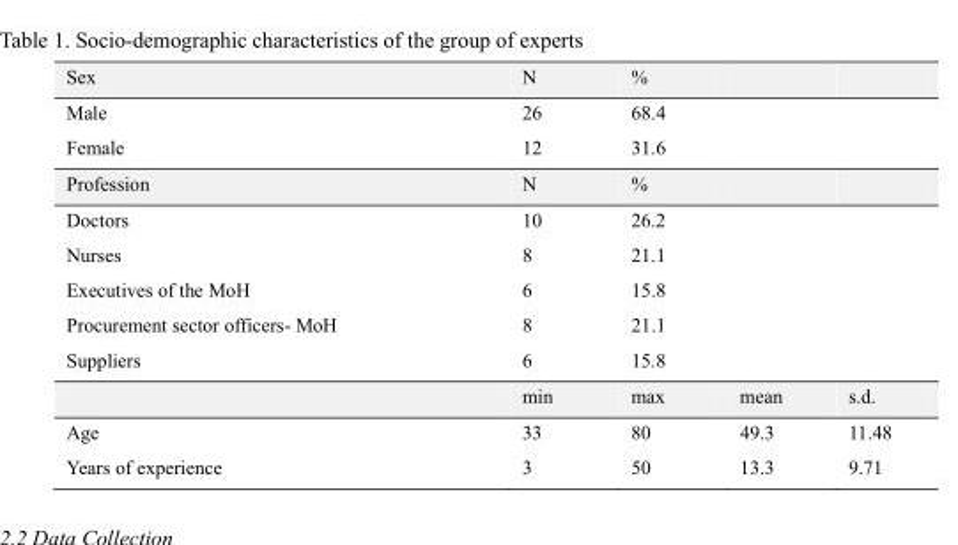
<table><thead><tr><td>Sex</td><td>N</td><td>%</td><td></td><td></td></tr></thead><tbody><tr><td>Male</td><td>26</td><td>68.4</td><td></td><td></td></tr><tr><td>Female</td><td>12</td><td>31.6</td><td></td><td></td></tr><tr><td>Profession</td><td>N</td><td>%</td><td></td><td></td></tr><tr><td>Doctors</td><td>10</td><td>26.2</td><td></td><td></td></tr><tr><td>Nurses</td><td>8</td><td>21.1</td><td></td><td></td></tr><tr><td>Executives of the MoH</td><td>6</td><td>15.8</td><td></td><td></td></tr><tr><td>Procurement sector officers- MoH</td><td>8</td><td>21.1</td><td></td><td></td></tr><tr><td rowspan="2">Suppliers</td><td>6</td><td>15.8</td><td></td><td></td></tr><tr><td>min</td><td>max</td><td>mean</td><td>s.d.</td></tr><tr><td>Age</td><td>33</td><td>80</td><td>49.3</td><td>11.48</td></tr><tr><td>Years of experience</td><td>3</td><td>50</td><td>13.3</td><td>9.71</td></tr></tbody></table>